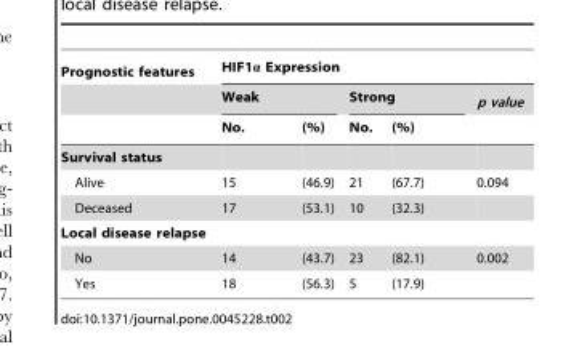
<table><thead><tr><td rowspan="3">Prognostic features</td><td colspan="5">HIF1α Expression</td></tr><tr><td colspan="2">Weak</td><td colspan="2">Strong</td><td rowspan="2">p value</td></tr><tr><td>No.</td><td>(%)</td><td>No.</td><td>(%)</td></tr></thead><tbody><tr><td colspan="6">Survival status</td></tr><tr><td>Alive</td><td>15</td><td>(46.9)</td><td>21</td><td>(67.7)</td><td>0.094</td></tr><tr><td>Deceased</td><td>17</td><td>(53.1)</td><td>10</td><td>(32.3)</td><td></td></tr><tr><td colspan="6">Local disease relapse</td></tr><tr><td>No</td><td>14</td><td>(43.7)</td><td>23</td><td>(82.1)</td><td>0.002</td></tr><tr><td>Yes</td><td>18</td><td>(56.3)</td><td>5</td><td>(17.9)</td><td></td></tr></tbody></table>